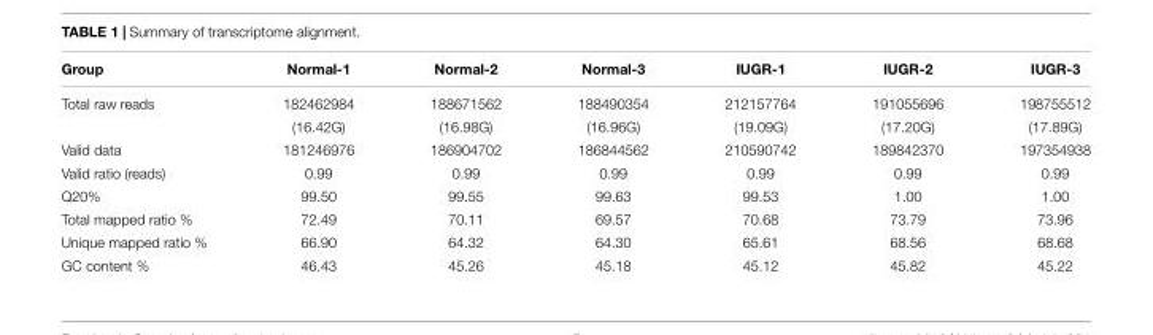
<table><thead><tr><td>Group</td><td>Normal-1</td><td>Normal-2</td><td>Normal-3</td><td>IUGR-1</td><td>IUGR-2</td><td>IUGR-3</td></tr></thead><tbody><tr><td rowspan="2">Total raw reads</td><td>182462984</td><td>188671562</td><td>188490354</td><td>212157764</td><td>191055696</td><td>198755512</td></tr><tr><td>(16.42G)</td><td>(16.98G)</td><td>(16.96G)</td><td>(19.09G)</td><td>(17.20G)</td><td>(17.89G)</td></tr><tr><td>Valid data</td><td>181246976</td><td>186904702</td><td>186844562</td><td>210590742</td><td>189842370</td><td>197354938</td></tr><tr><td>Valid ratio (reads)</td><td>0.99</td><td>0.99</td><td>0.99</td><td>0.99</td><td>0.99</td><td>0.99</td></tr><tr><td>Q20%</td><td>99.50</td><td>99.55</td><td>99.63</td><td>99.53</td><td>1.00</td><td>1.00</td></tr><tr><td>Total mapped ratio %</td><td>72.49</td><td>70.11</td><td>69.57</td><td>70.68</td><td>73.79</td><td>73.96</td></tr><tr><td>Unique mapped ratio %</td><td>66.90</td><td>64.32</td><td>64.30</td><td>65.61</td><td>68.56</td><td>68.68</td></tr><tr><td>GC content %</td><td>46.43</td><td>45.26</td><td>45.18</td><td>45.12</td><td>45.82</td><td>45.22</td></tr></tbody></table>